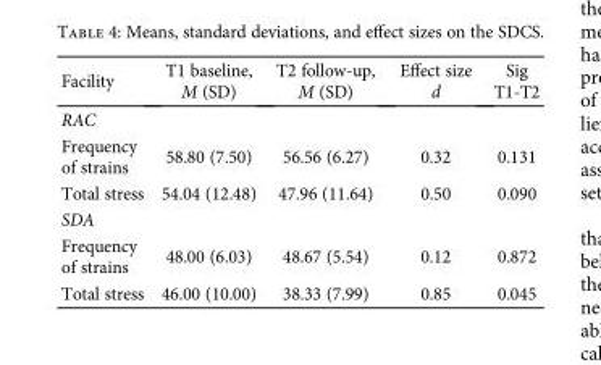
<table><thead><tr><td>Facility</td><td>T1 baseline, M (SD)</td><td>T2 follow-up, M (SD)</td><td>Effect size d</td><td>Sig T1-T2</td></tr></thead><tbody><tr><td colspan="5">RAC</td></tr><tr><td>Frequency of strains</td><td>58.80 (7.50)</td><td>56.56 (6.27)</td><td>0.32</td><td>0.131</td></tr><tr><td>Total stress</td><td>54.04 (12.48)</td><td>47.96 (11.64)</td><td>0.50</td><td>0.090</td></tr><tr><td colspan="5">SDA</td></tr><tr><td>Frequency of strains</td><td>48.00 (6.03)</td><td>48.67 (5.54)</td><td>0.12</td><td>0.872</td></tr><tr><td>Total stress</td><td>46.00 (10.00)</td><td>38.33 (7.99)</td><td>0.85</td><td>0.045</td></tr></tbody></table>